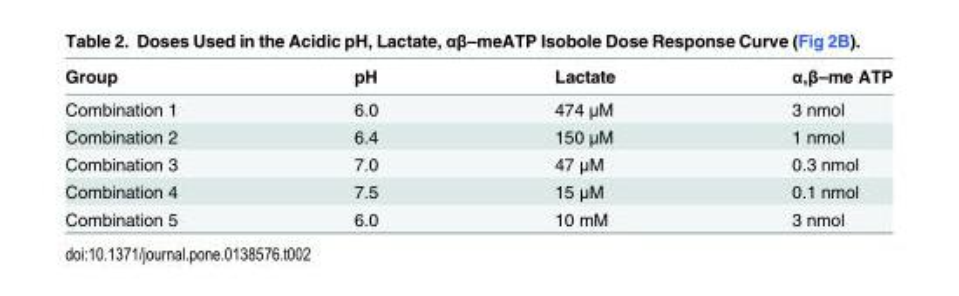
<table><thead><tr><td>Group</td><td>pH</td><td>Lactate</td><td>α,β–me ATP</td></tr></thead><tbody><tr><td>Combination 1</td><td>6.0</td><td>474 μM</td><td>3 nmol</td></tr><tr><td>Combination 2</td><td>6.4</td><td>150 μM</td><td>1 nmol</td></tr><tr><td>Combination 3</td><td>7.0</td><td>47 μM</td><td>0.3 nmol</td></tr><tr><td>Combination 4</td><td>7.5</td><td>15 μM</td><td>0.1 nmol</td></tr><tr><td>Combination 5</td><td>6.0</td><td>10 mM</td><td>3 nmol</td></tr></tbody></table>